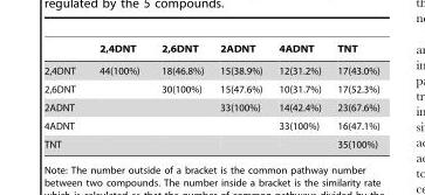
<table><thead><tr><td></td><td>2,4DNT</td><td>2,6DNT</td><td>2ADNT</td><td>4ADNT</td><td>TNT</td></tr></thead><tbody><tr><td>2,4DNT</td><td>44(100%)</td><td>18(46.8%)</td><td>15(38.9%)</td><td>12(31.2%)</td><td>17(43.0%)</td></tr><tr><td>2,6DNT</td><td></td><td>30(100%)</td><td>15(47.6%)</td><td>10(31.7%)</td><td>17(52.3%)</td></tr><tr><td>2ADNT</td><td></td><td></td><td>33(100%)</td><td>14(42.4%)</td><td>23(67.6%)</td></tr><tr><td>4ADNT</td><td></td><td></td><td></td><td>33(100%)</td><td>16(47.1%)</td></tr><tr><td>TNT</td><td></td><td></td><td></td><td></td><td>35(100%)</td></tr></tbody></table>